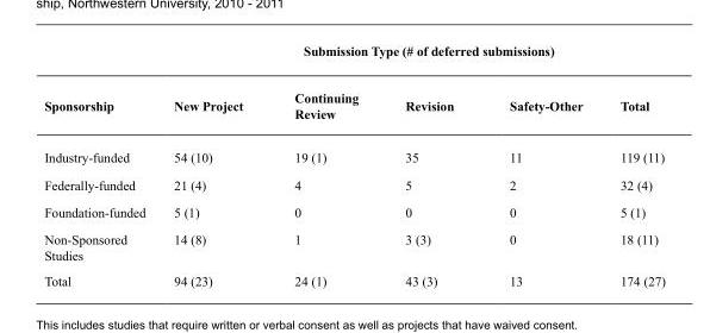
<table><thead><tr><td rowspan="2">Sponsorship</td><td colspan="5">Submission Type (# of deferred submissions)</td></tr><tr><td>New Project</td><td>Continuing Review</td><td>Revision</td><td>Safety-Other</td><td>Total</td></tr></thead><tbody><tr><td>Industry-funded</td><td>54 (10)</td><td>19 (1)</td><td>35</td><td>11</td><td>119 (11)</td></tr><tr><td>Federally-funded</td><td>21 (4)</td><td>4</td><td>5</td><td>2</td><td>32 (4)</td></tr><tr><td>Foundation-funded</td><td>5 (1)</td><td>0</td><td>0</td><td>0</td><td>5 (1)</td></tr><tr><td>Non-Sponsored Studies</td><td>14 (8)</td><td>1</td><td>3 (3)</td><td>0</td><td>18 (11)</td></tr><tr><td>Total</td><td>94 (23)</td><td>24 (1)</td><td>43 (3)</td><td>13</td><td>174 (27)</td></tr></tbody></table>